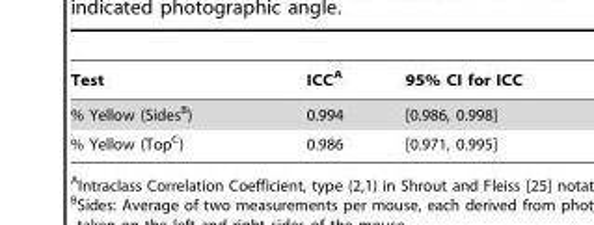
<table><thead><tr><td>Test</td><td>ICC<sup>A</sup></td><td>95% CI for ICC</td></tr></thead><tbody><tr><td>% Yellow (Sides<sup>B</sup>)</td><td>0.994</td><td>[0.986, 0.998]</td></tr><tr><td>% Yellow (Top<sup>C</sup>)</td><td>0.986</td><td>[0.971, 0.995]</td></tr></tbody></table>